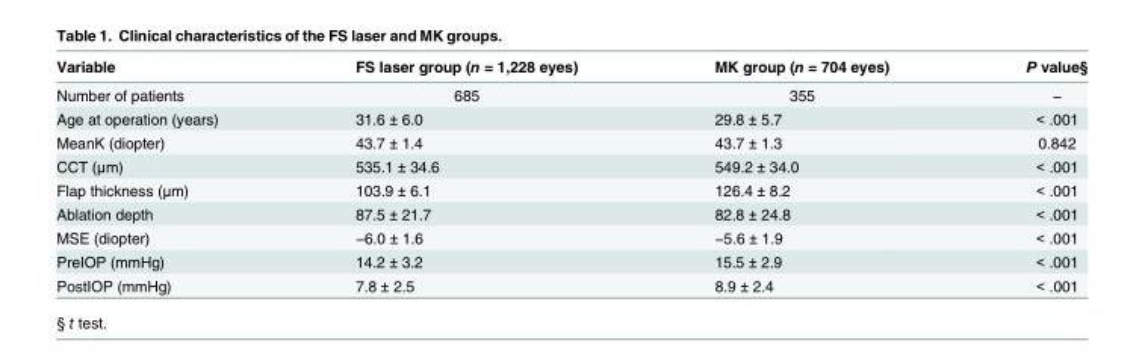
<table><thead><tr><td>Variable</td><td>FS laser group (n = 1,228 eyes)</td><td>MK group (n = 704 eyes)</td><td>P value§</td></tr></thead><tbody><tr><td>Number of patients</td><td>685</td><td>355</td><td>−</td></tr><tr><td>Age at operation (years)</td><td>31.6 ± 6.0</td><td>29.8 ± 5.7</td><td>&lt; .001</td></tr><tr><td>MeanK (diopter)</td><td>43.7 ± 1.4</td><td>43.7 ± 1.3</td><td>0.842</td></tr><tr><td>CCT (μm)</td><td>535.1 ± 34.6</td><td>549.2 ± 34.0</td><td>&lt; .001</td></tr><tr><td>Flap thickness (μm)</td><td>103.9 ± 6.1</td><td>126.4 ± 8.2</td><td>&lt; .001</td></tr><tr><td>Ablation depth</td><td>87.5 ± 21.7</td><td>82.8 ± 24.8</td><td>&lt; .001</td></tr><tr><td>MSE (diopter)</td><td>−6.0 ± 1.6</td><td>−5.6 ± 1.9</td><td>&lt; .001</td></tr><tr><td>PreIOP (mmHg)</td><td>14.2 ± 3.2</td><td>15.5 ± 2.9</td><td>&lt; .001</td></tr><tr><td>PostIOP (mmHg)</td><td>7.8 ± 2.5</td><td>8.9 ± 2.4</td><td>&lt; .001</td></tr></tbody></table>